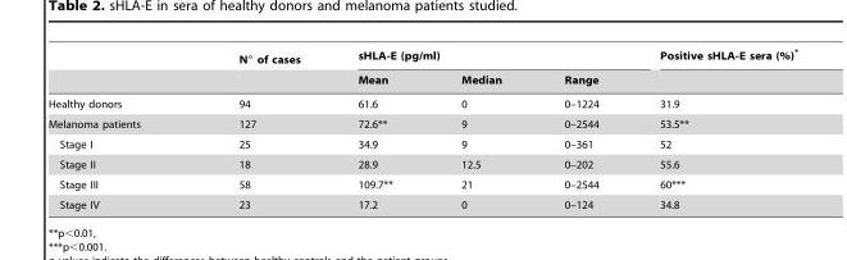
<table><thead><tr><td rowspan="2"></td><td rowspan="2">N° of cases</td><td colspan="3">sHLA-E (pg/ml)</td><td rowspan="2">Positive sHLA-E sera (%)*</td></tr><tr><td>Mean</td><td>Median</td><td>Range</td></tr></thead><tbody><tr><td>Healthy donors</td><td>94</td><td>61.6</td><td>0</td><td>0–1224</td><td>31.9</td></tr><tr><td>Melanoma patients</td><td>127</td><td>72.6**</td><td>9</td><td>0–2544</td><td>53.5**</td></tr><tr><td>Stage I</td><td>25</td><td>34.9</td><td>9</td><td>0–361</td><td>52</td></tr><tr><td>Stage II</td><td>18</td><td>28.9</td><td>12.5</td><td>0–202</td><td>55.6</td></tr><tr><td>Stage III</td><td>58</td><td>109.7**</td><td>21</td><td>0–2544</td><td>60***</td></tr><tr><td>Stage IV</td><td>23</td><td>17.2</td><td>0</td><td>0–124</td><td>34.8</td></tr></tbody></table>